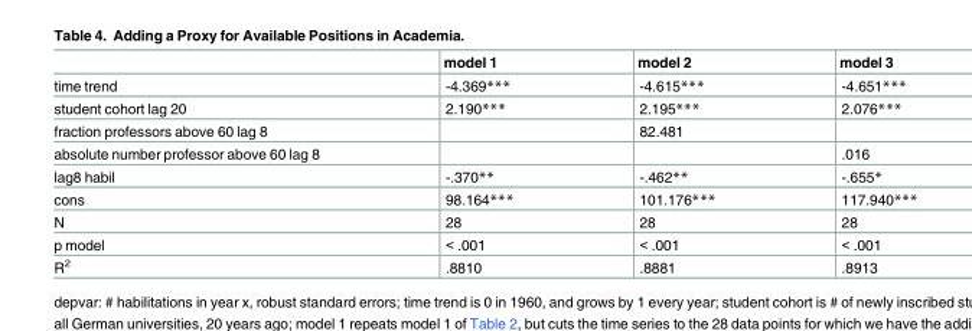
<table><thead><tr><td></td><td>model 1</td><td>model 2</td><td>model 3</td></tr></thead><tbody><tr><td>time trend</td><td>-4.369***</td><td>-4.615***</td><td>-4.651***</td></tr><tr><td>student cohort lag 20</td><td>2.190***</td><td>2.195***</td><td>2.076***</td></tr><tr><td>fraction professors above 60 lag 8</td><td></td><td>82.481</td><td></td></tr><tr><td>absolute number professor above 60 lag 8</td><td></td><td></td><td>.016</td></tr><tr><td>lag8 habil</td><td>-.370**</td><td>-.462**</td><td>-.655*</td></tr><tr><td>cons</td><td>98.164***</td><td>101.176***</td><td>117.940***</td></tr><tr><td>N</td><td>28</td><td>28</td><td>28</td></tr><tr><td>p model</td><td>&lt; .001</td><td>&lt; .001</td><td>&lt; .001</td></tr><tr><td>R<sup>2</sup></td><td>.8810</td><td>.8881</td><td>.8913</td></tr></tbody></table>